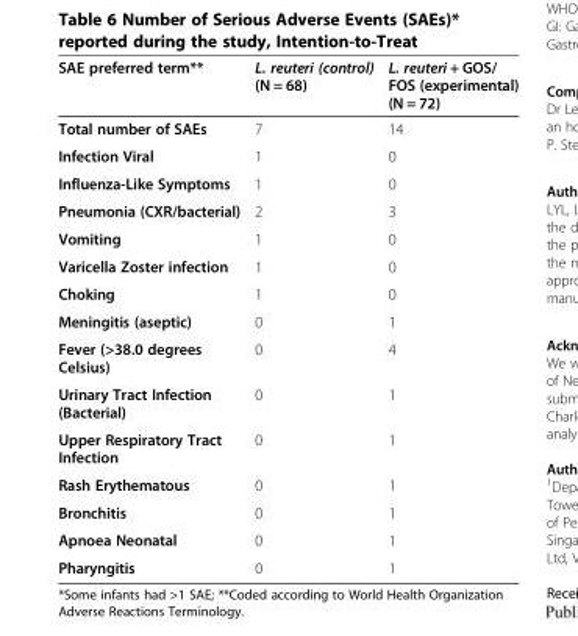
<table><thead><tr><td>SAE preferred term**</td><td>L. reuteri (control) (N = 68)</td><td>L. reuteri + GOS/ FOS (experimental) (N = 72)</td></tr></thead><tbody><tr><td>Total number of SAEs</td><td>7</td><td>14</td></tr><tr><td>Infection Viral</td><td>1</td><td>0</td></tr><tr><td>Influenza-Like Symptoms</td><td>1</td><td>0</td></tr><tr><td>Pneumonia (CXR/bacterial)</td><td>2</td><td>3</td></tr><tr><td>Vomiting</td><td>1</td><td>0</td></tr><tr><td>Varicella Zoster infection</td><td>1</td><td>0</td></tr><tr><td>Choking</td><td>1</td><td>0</td></tr><tr><td>Meningitis (aseptic)</td><td>0</td><td>1</td></tr><tr><td>Fever (&gt;38.0 degrees Celsius)</td><td>0</td><td>4</td></tr><tr><td>Urinary Tract Infection (Bacterial)</td><td>0</td><td>1</td></tr><tr><td>Upper Respiratory Tract Infection</td><td>0</td><td>1</td></tr><tr><td>Rash Erythematous</td><td>0</td><td>1</td></tr><tr><td>Bronchitis</td><td>0</td><td>1</td></tr><tr><td>Apnoea Neonatal</td><td>0</td><td>1</td></tr><tr><td>Pharyngitis</td><td>0</td><td>1</td></tr></tbody></table>